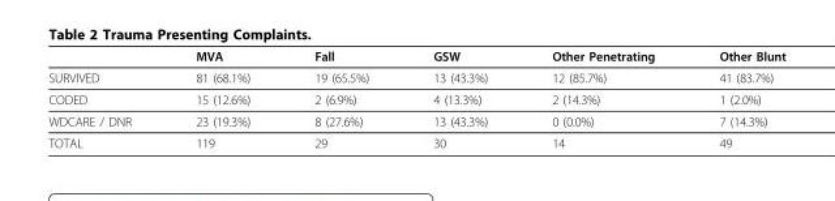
<table><thead><tr><td></td><td>MVA</td><td>Fall</td><td>GSW</td><td>Other Penetrating</td><td>Other Blunt</td></tr></thead><tbody><tr><td>SURVIVED</td><td>81 (68.1%)</td><td>19 (65.5%)</td><td>13 (43.3%)</td><td>12 (85.7%)</td><td>41 (83.7%)</td></tr><tr><td>CODED</td><td>15 (12.6%)</td><td>2 (6.9%)</td><td>4 (13.3%)</td><td>2 (14.3%)</td><td>1 (2.0%)</td></tr><tr><td>WDCARE / DNR</td><td>23 (19.3%)</td><td>8 (27.6%)</td><td>13 (43.3%)</td><td>0 (0.0%)</td><td>7 (14.3%)</td></tr><tr><td>TOTAL</td><td>119</td><td>29</td><td>30</td><td>14</td><td>49</td></tr></tbody></table>